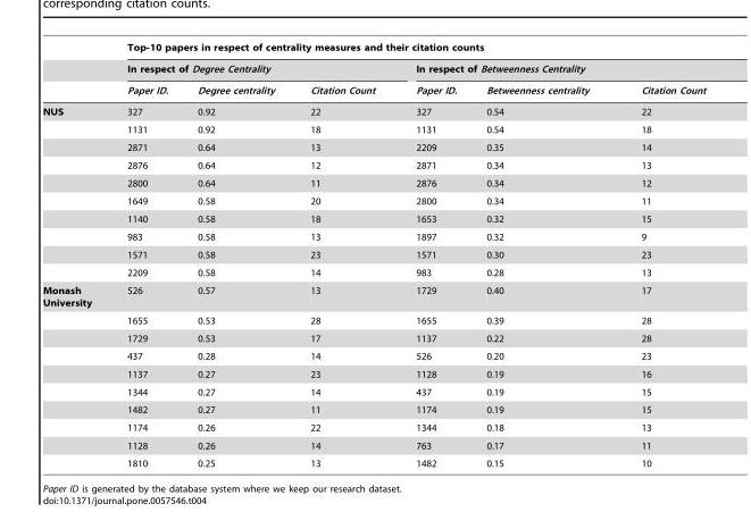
<table><thead><tr><td rowspan="3"></td><td colspan="6">Top-10 papers in respect of centrality measures and their citation counts</td></tr><tr><td colspan="3">In respect of Degree Centrality</td><td colspan="3">In respect of Betweenness Centrality</td></tr><tr><td>Paper ID.</td><td>Degree centrality</td><td>Citation Count</td><td>Paper ID.</td><td>Betweenness centrality</td><td>Citation Count</td></tr></thead><tbody><tr><td rowspan="10">NUS</td><td>327</td><td>0.92</td><td>22</td><td>327</td><td>0.54</td><td>22</td></tr><tr><td>1131</td><td>0.92</td><td>18</td><td>1131</td><td>0.54</td><td>18</td></tr><tr><td>2871</td><td>0.64</td><td>13</td><td>2209</td><td>0.35</td><td>14</td></tr><tr><td>2876</td><td>0.64</td><td>12</td><td>2871</td><td>0.34</td><td>13</td></tr><tr><td>2800</td><td>0.64</td><td>11</td><td>2876</td><td>0.34</td><td>12</td></tr><tr><td>1649</td><td>0.58</td><td>20</td><td>2800</td><td>0.34</td><td>11</td></tr><tr><td>1140</td><td>0.58</td><td>18</td><td>1653</td><td>0.32</td><td>15</td></tr><tr><td>983</td><td>0.58</td><td>13</td><td>1897</td><td>0.32</td><td>9</td></tr><tr><td>1571</td><td>0.58</td><td>23</td><td>1571</td><td>0.30</td><td>23</td></tr><tr><td>2209</td><td>0.58</td><td>14</td><td>983</td><td>0.28</td><td>13</td></tr><tr><td rowspan="10">Monash University</td><td>526</td><td>0.57</td><td>13</td><td>1729</td><td>0.40</td><td>17</td></tr><tr><td>1655</td><td>0.53</td><td>28</td><td>1655</td><td>0.39</td><td>28</td></tr><tr><td>1729</td><td>0.53</td><td>17</td><td>1137</td><td>0.22</td><td>28</td></tr><tr><td>437</td><td>0.28</td><td>14</td><td>526</td><td>0.20</td><td>23</td></tr><tr><td>1137</td><td>0.27</td><td>23</td><td>1128</td><td>0.19</td><td>16</td></tr><tr><td>1344</td><td>0.27</td><td>14</td><td>437</td><td>0.19</td><td>15</td></tr><tr><td>1482</td><td>0.27</td><td>11</td><td>1174</td><td>0.19</td><td>15</td></tr><tr><td>1174</td><td>0.26</td><td>22</td><td>1344</td><td>0.18</td><td>13</td></tr><tr><td>1128</td><td>0.26</td><td>14</td><td>763</td><td>0.17</td><td>11</td></tr><tr><td>1810</td><td>0.25</td><td>13</td><td>1482</td><td>0.15</td><td>10</td></tr></tbody></table>